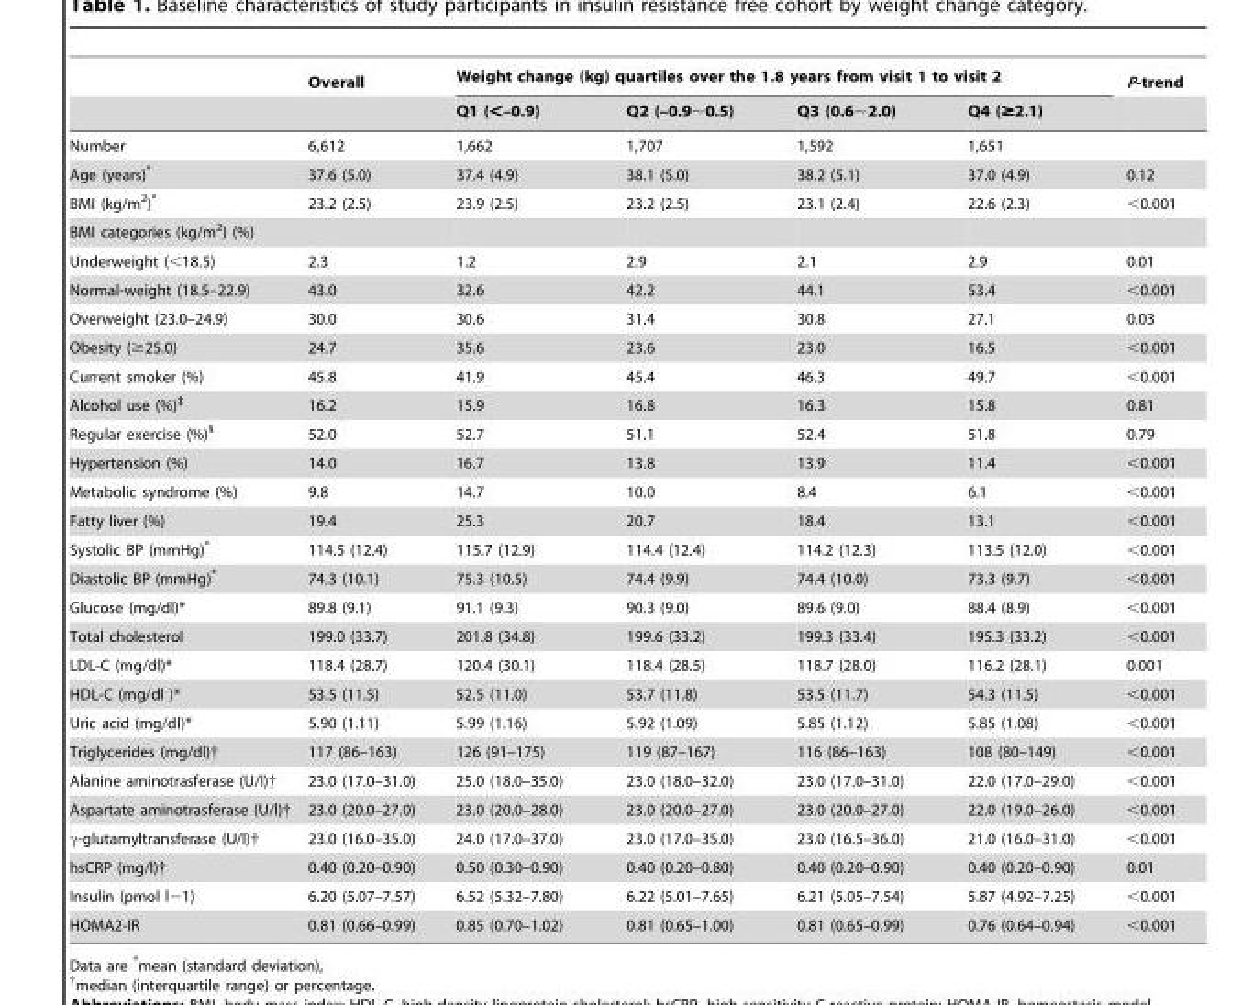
<table><thead><tr><td rowspan="2"></td><td rowspan="2">Overall</td><td colspan="4">Weight change (kg) quartiles over the 1.8 years from visit 1 to visit 2</td><td rowspan="2">P-trend</td></tr><tr><td>Q1 (&lt;–0.9)</td><td>Q2 (–0.9∼0.5)</td><td>Q3 (0.6∼2.0)</td><td>Q4 (≥2.1)</td></tr></thead><tbody><tr><td>Number</td><td>6,612</td><td>1,662</td><td>1,707</td><td>1,592</td><td>1,651</td><td></td></tr><tr><td>Age (years)*</td><td>37.6 (5.0)</td><td>37.4 (4.9)</td><td>38.1 (5.0)</td><td>38.2 (5.1)</td><td>37.0 (4.9)</td><td>0.12</td></tr><tr><td>BMI (kg/m<sup>2</sup>)*</td><td>23.2 (2.5)</td><td>23.9 (2.5)</td><td>23.2 (2.5)</td><td>23.1 (2.4)</td><td>22.6 (2.3)</td><td>&lt;0.001</td></tr><tr><td colspan="7">BMI categories (kg/m<sup>2</sup>) (%)</td></tr><tr><td>Underweight (&lt;18.5)</td><td>2.3</td><td>1.2</td><td>2.9</td><td>2.1</td><td>2.9</td><td>0.01</td></tr><tr><td>Normal-weight (18.5–22.9)</td><td>43.0</td><td>32.6</td><td>42.2</td><td>44.1</td><td>53.4</td><td>&lt;0.001</td></tr><tr><td>Overweight (23.0–24.9)</td><td>30.0</td><td>30.6</td><td>31.4</td><td>30.8</td><td>27.1</td><td>0.03</td></tr><tr><td>Obesity (≥25.0)</td><td>24.7</td><td>35.6</td><td>23.6</td><td>23.0</td><td>16.5</td><td>&lt;0.001</td></tr><tr><td>Current smoker (%)</td><td>45.8</td><td>41.9</td><td>45.4</td><td>46.3</td><td>49.7</td><td>&lt;0.001</td></tr><tr><td>Alcohol use (%)‡</td><td>16.2</td><td>15.9</td><td>16.8</td><td>16.3</td><td>15.8</td><td>0.81</td></tr><tr><td>Regular exercise (%)§</td><td>52.0</td><td>52.7</td><td>51.1</td><td>52.4</td><td>51.8</td><td>0.79</td></tr><tr><td>Hypertension (%)</td><td>14.0</td><td>16.7</td><td>13.8</td><td>13.9</td><td>11.4</td><td>&lt;0.001</td></tr><tr><td>Metabolic syndrome (%)</td><td>9.8</td><td>14.7</td><td>10.0</td><td>8.4</td><td>6.1</td><td>&lt;0.001</td></tr><tr><td>Fatty liver (%)</td><td>19.4</td><td>25.3</td><td>20.7</td><td>18.4</td><td>13.1</td><td>&lt;0.001</td></tr><tr><td>Systolic BP (mmHg)*</td><td>114.5 (12.4)</td><td>115.7 (12.9)</td><td>114.4 (12.4)</td><td>114.2 (12.3)</td><td>113.5 (12.0)</td><td>&lt;0.001</td></tr><tr><td>Diastolic BP (mmHg)*</td><td>74.3 (10.1)</td><td>75.3 (10.5)</td><td>74.4 (9.9)</td><td>74.4 (10.0)</td><td>73.3 (9.7)</td><td>&lt;0.001</td></tr><tr><td>Glucose (mg/dl)*</td><td>89.8 (9.1)</td><td>91.1 (9.3)</td><td>90.3 (9.0)</td><td>89.6 (9.0)</td><td>88.4 (8.9)</td><td>&lt;0.001</td></tr><tr><td>Total cholesterol</td><td>199.0 (33.7)</td><td>201.8 (34.8)</td><td>199.6 (33.2)</td><td>199.3 (33.4)</td><td>195.3 (33.2)</td><td>&lt;0.001</td></tr><tr><td>LDL-C (mg/dl)*</td><td>118.4 (28.7)</td><td>120.4 (30.1)</td><td>118.4 (28.5)</td><td>118.7 (28.0)</td><td>116.2 (28.1)</td><td>0.001</td></tr><tr><td>HDL-C (mg/dl )*</td><td>53.5 (11.5)</td><td>52.5 (11.0)</td><td>53.7 (11.8)</td><td>53.5 (11.7)</td><td>54.3 (11.5)</td><td>&lt;0.001</td></tr><tr><td>Uric acid (mg/dl)*</td><td>5.90 (1.11)</td><td>5.99 (1.16)</td><td>5.92 (1.09)</td><td>5.85 (1.12)</td><td>5.85 (1.08)</td><td>&lt;0.001</td></tr><tr><td>Triglycerides (mg/dl)†</td><td>117 (86–163)</td><td>126 (91–175)</td><td>119 (87–167)</td><td>116 (86–163)</td><td>108 (80–149)</td><td>&lt;0.001</td></tr><tr><td>Alanine aminotrasferase (U/l)†</td><td>23.0 (17.0–31.0)</td><td>25.0 (18.0–35.0)</td><td>23.0 (18.0–32.0)</td><td>23.0 (17.0–31.0)</td><td>22.0 (17.0–29.0)</td><td>&lt;0.001</td></tr><tr><td>Aspartate aminotrasferase (U/l)†</td><td>23.0 (20.0–27.0)</td><td>23.0 (20.0–28.0)</td><td>23.0 (20.0–27.0)</td><td>23.0 (20.0–27.0)</td><td>22.0 (19.0–26.0)</td><td>&lt;0.001</td></tr><tr><td>γ-glutamyltransferase (U/l)†</td><td>23.0 (16.0–35.0)</td><td>24.0 (17.0–37.0)</td><td>23.0 (17.0–35.0)</td><td>23.0 (16.5–36.0)</td><td>21.0 (16.0–31.0)</td><td>&lt;0.001</td></tr><tr><td>hsCRP (mg/l)†</td><td>0.40 (0.20–0.90)</td><td>0.50 (0.30–0.90)</td><td>0.40 (0.20–0.80)</td><td>0.40 (0.20–0.90)</td><td>0.40 (0.20–0.90)</td><td>0.01</td></tr><tr><td>Insulin (pmol l−1)</td><td>6.20 (5.07–7.57)</td><td>6.52 (5.32–7.80)</td><td>6.22 (5.01–7.65)</td><td>6.21 (5.05–7.54)</td><td>5.87 (4.92–7.25)</td><td>&lt;0.001</td></tr><tr><td>HOMA2-IR</td><td>0.81 (0.66–0.99)</td><td>0.85 (0.70–1.02)</td><td>0.81 (0.65–1.00)</td><td>0.81 (0.65–0.99)</td><td>0.76 (0.64–0.94)</td><td>&lt;0.001</td></tr></tbody></table>